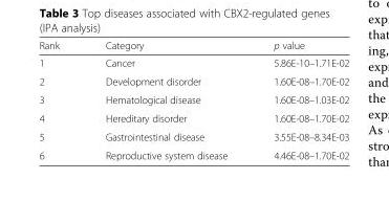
<table><thead><tr><td>Rank</td><td>Category</td><td>p value</td></tr></thead><tbody><tr><td>1</td><td>Cancer</td><td>5.86E-10–1.71E-02</td></tr><tr><td>2</td><td>Development disorder</td><td>1.60E-08–1.70E-02</td></tr><tr><td>3</td><td>Hematological disease</td><td>1.60E-08–1.03E-02</td></tr><tr><td>4</td><td>Hereditary disorder</td><td>1.60E-08–1.70E-02</td></tr><tr><td>5</td><td>Gastrointestinal disease</td><td>3.55E-08–8.34E-03</td></tr><tr><td>6</td><td>Reproductive system disease</td><td>4.46E-08–1.70E-02</td></tr></tbody></table>